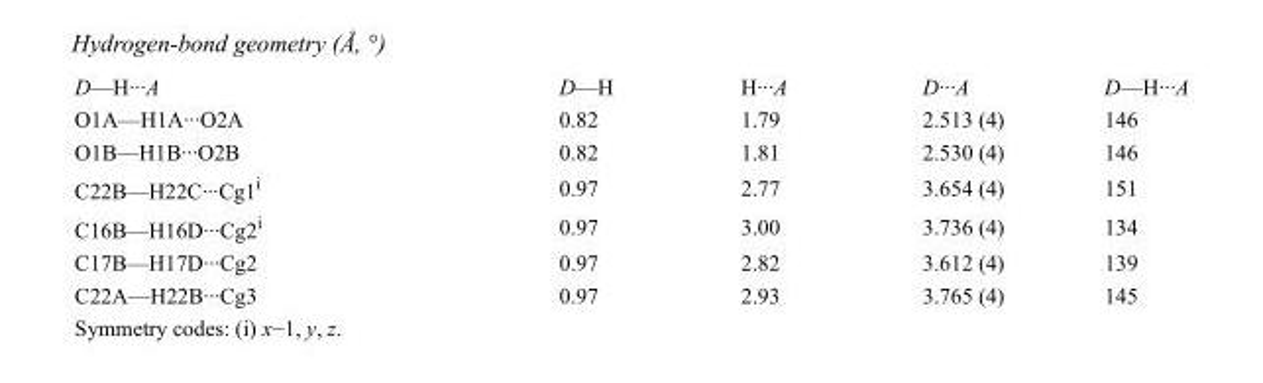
<table><tbody><tr><td>D—H···A</td><td>D—H</td><td>H···A</td><td>D···A</td><td>D—H···A</td></tr><tr><td>O1A—H1A···O2A</td><td>0.82</td><td>1.79</td><td>2.513 (4)</td><td>146</td></tr><tr><td>O1B—H1B···O2B</td><td>0.82</td><td>1.81</td><td>2.530 (4)</td><td>146</td></tr><tr><td>C22B—H22C···Cg1<sup>i</sup></td><td>0.97</td><td>2.77</td><td>3.654 (4)</td><td>151</td></tr><tr><td>C16B—H16D···Cg2<sup>i</sup></td><td>0.97</td><td>3.00</td><td>3.736 (4)</td><td>134</td></tr><tr><td>C17B—H17D···Cg2</td><td>0.97</td><td>2.82</td><td>3.612 (4)</td><td>139</td></tr><tr><td>C22A—H22B···Cg3</td><td>0.97</td><td>2.93</td><td>3.765 (4)</td><td>145</td></tr></tbody></table>